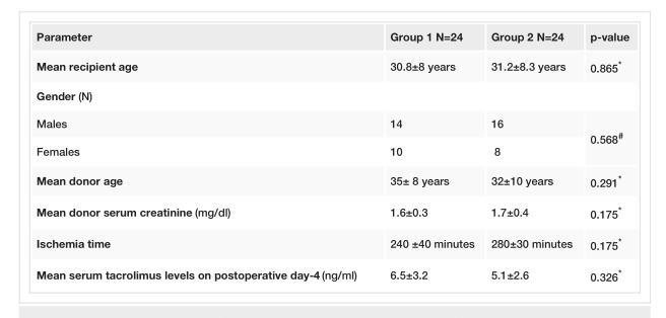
<table><tbody><tr><td>Parameter</td><td>Group 1 N=24</td><td>Group 2 N=24</td><td>p-value</td></tr><tr><td>Mean recipient age</td><td>30.8±8 years</td><td>31.2±8.3 years</td><td>0.865*</td></tr><tr><td colspan="4">Gender (N)</td></tr><tr><td>Males</td><td>14</td><td>16</td><td rowspan="2">0.568<sup>#</sup></td></tr><tr><td>Females</td><td>10</td><td>8</td></tr><tr><td>Mean donor age</td><td>35± 8 years</td><td>32±10 years</td><td>0.291*</td></tr><tr><td>Mean donor serum creatinine (mg/dl)</td><td>1.6±0.3</td><td>1.7±0.4</td><td>0.175*</td></tr><tr><td>Ischemia time</td><td>240 ±40 minutes</td><td>280±30 minutes</td><td>0.175*</td></tr><tr><td>Mean serum tacrolimus levels on postoperative day-4 (ng/ml)</td><td>6.5±3.2</td><td>5.1±2.6</td><td>0.326*</td></tr></tbody></table>